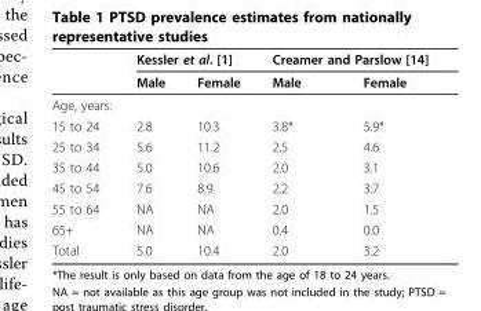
<table><thead><tr><td rowspan="2"></td><td colspan="2">Kessler et al. [1]</td><td colspan="2">Creamer and Parslow [14]</td></tr><tr><td>Male</td><td>Female</td><td>Male</td><td>Female</td></tr></thead><tbody><tr><td colspan="5">Age, years:</td></tr><tr><td>15 to 24</td><td>2.8</td><td>10.3</td><td>3.8*</td><td>5.9*</td></tr><tr><td>25 to 34</td><td>5.6</td><td>11.2</td><td>2.5</td><td>4.6</td></tr><tr><td>35 to 44</td><td>5.0</td><td>10.6</td><td>2.0</td><td>3.1</td></tr><tr><td>45 to 54</td><td>7.6</td><td>8.9</td><td>2.2</td><td>3.7</td></tr><tr><td>55 to 64</td><td>NA</td><td>NA</td><td>2.0</td><td>1.5</td></tr><tr><td>65+</td><td>NA</td><td>NA</td><td>0.4</td><td>0.0</td></tr><tr><td>Total</td><td>5.0</td><td>10.4</td><td>2.0</td><td>3.2</td></tr></tbody></table>